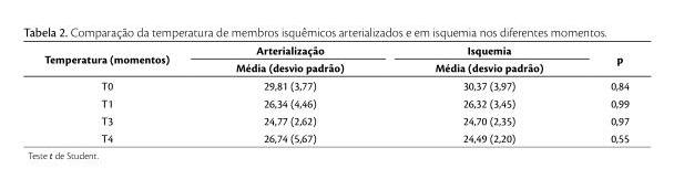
<table><thead><tr><td rowspan="2">Temperatura (momentos)</td><td rowspan="2">Arterialização Média (desvio padrão)</td><td rowspan="2">Isquemia Média (desvio padrão)</td><td rowspan="2">p</td></tr><tr></tr></thead><tbody><tr><td>T0</td><td>29,81 (3,77)</td><td>30,37 (3,97)</td><td>0,84</td></tr><tr><td>T1</td><td>26,34 (4,46)</td><td>26,32 (3,45)</td><td>0,99</td></tr><tr><td>T3</td><td>24,77 (2,62)</td><td>24,70 (2,35)</td><td>0,97</td></tr><tr><td>T4</td><td>26,74 (5,67)</td><td>24,49 (2,20)</td><td>0,55</td></tr></tbody></table>